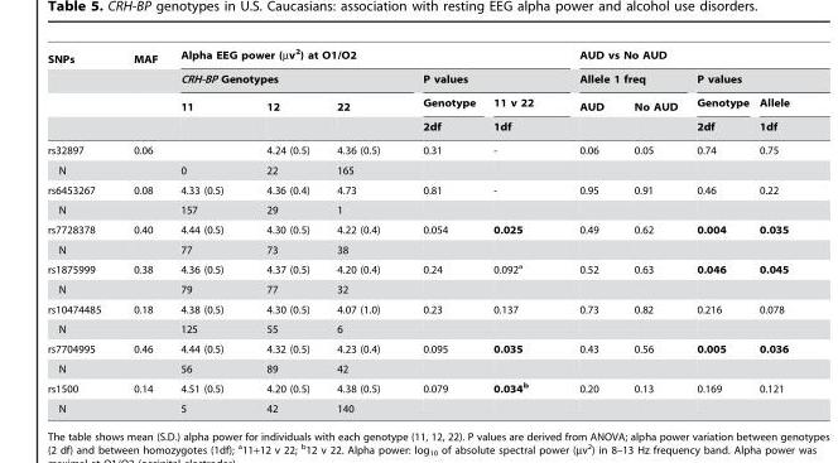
<table><thead><tr><td rowspan="4">SNPs</td><td rowspan="4">MAF</td><td colspan="5">Alpha EEG power (µv<sup>2</sup>) at O1/O2</td><td colspan="4">AUD vs No AUD</td></tr><tr><td colspan="3">CRH-BP Genotypes</td><td colspan="2">P values</td><td colspan="2">Allele 1 freq</td><td colspan="2">P values</td></tr><tr><td rowspan="2">11</td><td rowspan="2">12</td><td rowspan="2">22</td><td rowspan="2">Genotype 2df</td><td rowspan="2">11 v 22 1df</td><td rowspan="2">AUD</td><td rowspan="2">No AUD</td><td rowspan="2">Genotype 2df</td><td rowspan="2">Allele 1df</td></tr><tr></tr></thead><tbody><tr><td>rs32897</td><td>0.06</td><td></td><td>4.24 (0.5)</td><td>4.36 (0.5)</td><td>0.31</td><td>-</td><td>0.06</td><td>0.05</td><td>0.74</td><td>0.75</td></tr><tr><td>N</td><td></td><td>0</td><td>22</td><td>165</td><td></td><td></td><td></td><td></td><td></td><td></td></tr><tr><td>rs6453267</td><td>0.08</td><td>4.33 (0.5)</td><td>4.36 (0.4)</td><td>4.73</td><td>0.81</td><td>-</td><td>0.95</td><td>0.91</td><td>0.46</td><td>0.22</td></tr><tr><td>N</td><td></td><td>157</td><td>29</td><td>1</td><td></td><td></td><td></td><td></td><td></td><td></td></tr><tr><td>rs7728378</td><td>0.40</td><td>4.44 (0.5)</td><td>4.30 (0.5)</td><td>4.22 (0.4)</td><td>0.054</td><td>0.025</td><td>0.49</td><td>0.62</td><td>0.004</td><td>0.035</td></tr><tr><td>N</td><td></td><td>77</td><td>73</td><td>38</td><td></td><td></td><td></td><td></td><td></td><td></td></tr><tr><td>rs1875999</td><td>0.38</td><td>4.36 (0.5)</td><td>4.37 (0.5)</td><td>4.20 (0.4)</td><td>0.24</td><td>0.092<sup>a</sup></td><td>0.52</td><td>0.63</td><td>0.046</td><td>0.045</td></tr><tr><td>N</td><td></td><td>79</td><td>77</td><td>32</td><td></td><td></td><td></td><td></td><td></td><td></td></tr><tr><td>rs10474485</td><td>0.18</td><td>4.38 (0.5)</td><td>4.30 (0.5)</td><td>4.07 (1.0)</td><td>0.23</td><td>0.137</td><td>0.73</td><td>0.82</td><td>0.216</td><td>0.078</td></tr><tr><td>N</td><td></td><td>125</td><td>55</td><td>6</td><td></td><td></td><td></td><td></td><td></td><td></td></tr><tr><td>rs7704995</td><td>0.46</td><td>4.44 (0.5)</td><td>4.32 (0.5)</td><td>4.23 (0.4)</td><td>0.095</td><td>0.035</td><td>0.43</td><td>0.56</td><td>0.005</td><td>0.036</td></tr><tr><td>N</td><td></td><td>56</td><td>89</td><td>42</td><td></td><td></td><td></td><td></td><td></td><td></td></tr><tr><td>rs1500</td><td>0.14</td><td>4.51 (0.5)</td><td>4.20 (0.5)</td><td>4.38 (0.5)</td><td>0.079</td><td>0.034<sup>b</sup></td><td>0.20</td><td>0.13</td><td>0.169</td><td>0.121</td></tr><tr><td>N</td><td></td><td>5</td><td>42</td><td>140</td><td></td><td></td><td></td><td></td><td></td><td></td></tr></tbody></table>